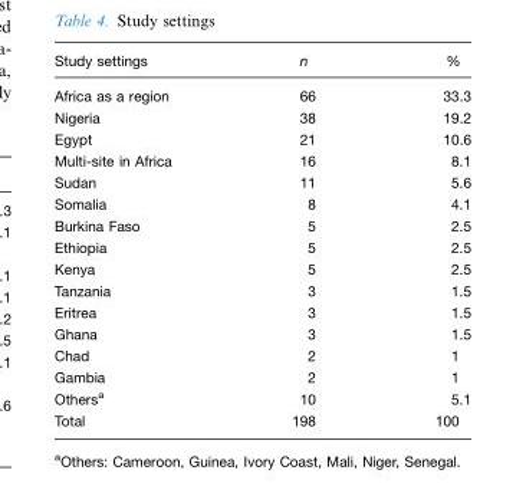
<table><thead><tr><td>Study settings</td><td>n</td><td>%</td></tr></thead><tbody><tr><td>Africa as a region</td><td>66</td><td>33.3</td></tr><tr><td>Nigeria</td><td>38</td><td>19.2</td></tr><tr><td>Egypt</td><td>21</td><td>10.6</td></tr><tr><td>Multi-site in Africa</td><td>16</td><td>8.1</td></tr><tr><td>Sudan</td><td>11</td><td>5.6</td></tr><tr><td>Somalia</td><td>8</td><td>4.1</td></tr><tr><td>Burkina Faso</td><td>5</td><td>2.5</td></tr><tr><td>Ethiopia</td><td>5</td><td>2.5</td></tr><tr><td>Kenya</td><td>5</td><td>2.5</td></tr><tr><td>Tanzania</td><td>3</td><td>1.5</td></tr><tr><td>Eritrea</td><td>3</td><td>1.5</td></tr><tr><td>Ghana</td><td>3</td><td>1.5</td></tr><tr><td>Chad</td><td>2</td><td>1</td></tr><tr><td>Gambia</td><td>2</td><td>1</td></tr><tr><td>Others<sup>a</sup></td><td>10</td><td>5.1</td></tr><tr><td>Total</td><td>198</td><td>100</td></tr></tbody></table>